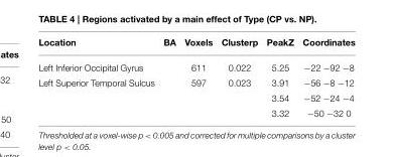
<table><thead><tr><td>Location</td><td>BA</td><td>Voxels</td><td>Clusterp</td><td>PeakZ</td><td>Coordinates</td></tr></thead><tbody><tr><td>Left Inferior Occipital Gyrus</td><td></td><td>611</td><td>0.022</td><td>5.25</td><td>−22 −92 −8</td></tr><tr><td rowspan="3">Left Superior Temporal Sulcus</td><td></td><td>597</td><td>0.023</td><td>3.91</td><td>−56 −8 −12</td></tr><tr><td></td><td></td><td></td><td>3.54</td><td>−52 −24 −4</td></tr><tr><td></td><td></td><td></td><td>3.32</td><td>−50 −32 0</td></tr></tbody></table>